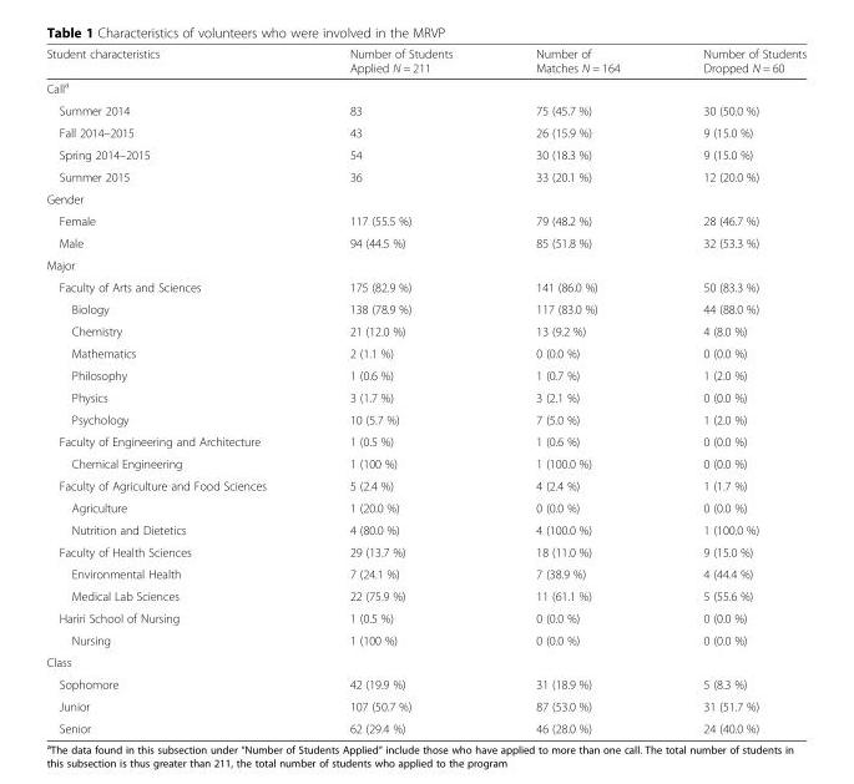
<table><thead><tr><td>Student characteristics</td><td>Number of Students Applied N = 211</td><td>Number of Matches N = 164</td><td>Number of Students Dropped N = 60</td></tr></thead><tbody><tr><td colspan="4">Call<sup>a</sup></td></tr><tr><td>Summer 2014</td><td>83</td><td>75 (45.7 %)</td><td>30 (50.0 %)</td></tr><tr><td>Fall 2014–2015</td><td>43</td><td>26 (15.9 %)</td><td>9 (15.0 %)</td></tr><tr><td>Spring 2014–2015</td><td>54</td><td>30 (18.3 %)</td><td>9 (15.0 %)</td></tr><tr><td>Summer 2015</td><td>36</td><td>33 (20.1 %)</td><td>12 (20.0 %)</td></tr><tr><td colspan="4">Gender</td></tr><tr><td>Female</td><td>117 (55.5 %)</td><td>79 (48.2 %)</td><td>28 (46.7 %)</td></tr><tr><td>Male</td><td>94 (44.5 %)</td><td>85 (51.8 %)</td><td>32 (53.3 %)</td></tr><tr><td colspan="4">Major</td></tr><tr><td>Faculty of Arts and Sciences</td><td>175 (82.9 %)</td><td>141 (86.0 %)</td><td>50 (83.3 %)</td></tr><tr><td>Biology</td><td>138 (78.9 %)</td><td>117 (83.0 %)</td><td>44 (88.0 %)</td></tr><tr><td>Chemistry</td><td>21 (12.0 %)</td><td>13 (9.2 %)</td><td>4 (8.0 %)</td></tr><tr><td>Mathematics</td><td>2 (1.1 %)</td><td>0 (0.0 %)</td><td>0 (0.0 %)</td></tr><tr><td>Philosophy</td><td>1 (0.6 %)</td><td>1 (0.7 %)</td><td>1 (2.0 %)</td></tr><tr><td>Physics</td><td>3 (1.7 %)</td><td>3 (2.1 %)</td><td>0 (0.0 %)</td></tr><tr><td>Psychology</td><td>10 (5.7 %)</td><td>7 (5.0 %)</td><td>1 (2.0 %)</td></tr><tr><td>Faculty of Engineering and Architecture</td><td>1 (0.5 %)</td><td>1 (0.6 %)</td><td>0 (0.0 %)</td></tr><tr><td>Chemical Engineering</td><td>1 (100 %)</td><td>1 (100.0 %)</td><td>0 (0.0 %)</td></tr><tr><td>Faculty of Agriculture and Food Sciences</td><td>5 (2.4 %)</td><td>4 (2.4 %)</td><td>1 (1.7 %)</td></tr><tr><td>Agriculture</td><td>1 (20.0 %)</td><td>0 (0.0 %)</td><td>0 (0.0 %)</td></tr><tr><td>Nutrition and Dietetics</td><td>4 (80.0 %)</td><td>4 (100.0 %)</td><td>1 (100.0 %)</td></tr><tr><td>Faculty of Health Sciences</td><td>29 (13.7 %)</td><td>18 (11.0 %)</td><td>9 (15.0 %)</td></tr><tr><td>Environmental Health</td><td>7 (24.1 %)</td><td>7 (38.9 %)</td><td>4 (44.4 %)</td></tr><tr><td>Medical Lab Sciences</td><td>22 (75.9 %)</td><td>11 (61.1 %)</td><td>5 (55.6 %)</td></tr><tr><td>Hariri School of Nursing</td><td>1 (0.5 %)</td><td>0 (0.0 %)</td><td>0 (0.0 %)</td></tr><tr><td>Nursing</td><td>1 (100 %)</td><td>0 (0.0 %)</td><td>0 (0.0 %)</td></tr><tr><td colspan="4">Class</td></tr><tr><td>Sophomore</td><td>42 (19.9 %)</td><td>31 (18.9 %)</td><td>5 (8.3 %)</td></tr><tr><td>Junior</td><td>107 (50.7 %)</td><td>87 (53.0 %)</td><td>31 (51.7 %)</td></tr><tr><td>Senior</td><td>62 (29.4 %)</td><td>46 (28.0 %)</td><td>24 (40.0 %)</td></tr></tbody></table>